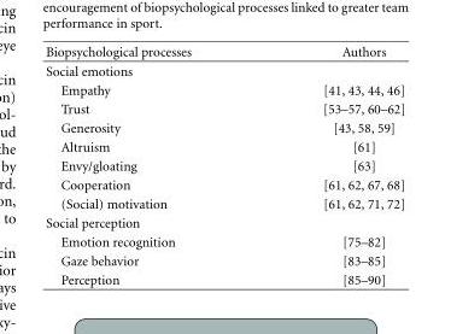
<table><thead><tr><td>Biopsychological processes</td><td>Authors</td></tr></thead><tbody><tr><td colspan="2">Social emotions</td></tr><tr><td>Empathy</td><td>[41, 43, 44, 46]</td></tr><tr><td>Trust</td><td>[53–57, 60–62]</td></tr><tr><td>Generosity</td><td>[43, 58, 59]</td></tr><tr><td>Altruism</td><td>[61]</td></tr><tr><td>Envy/gloating</td><td>[63]</td></tr><tr><td>Cooperation</td><td>[61, 62, 67, 68]</td></tr><tr><td>(Social) motivation</td><td>[61, 62, 71, 72]</td></tr><tr><td colspan="2">Social perception</td></tr><tr><td>Emotion recognition</td><td>[75–82]</td></tr><tr><td>Gaze behavior</td><td>[83–85]</td></tr><tr><td>Perception</td><td>[85–90]</td></tr></tbody></table>